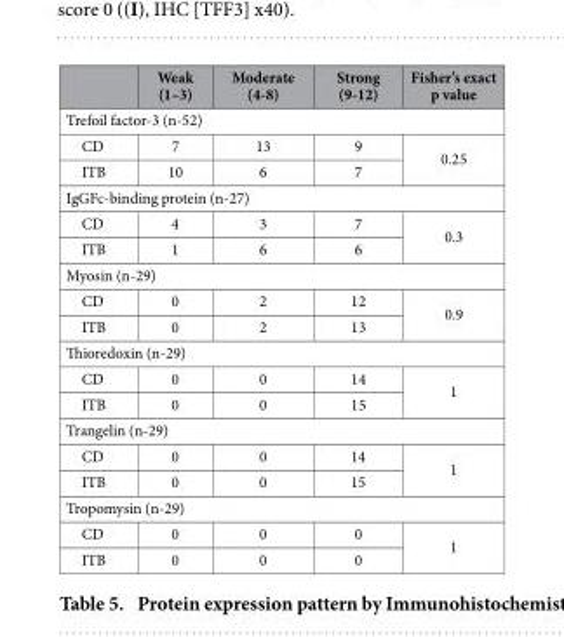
<table><thead><tr><td></td><td>Weak (1–3)</td><td>Moderate (4-8)</td><td>Strong (9-12)</td><td>Fisher’s exact p value</td></tr></thead><tbody><tr><td colspan="5">Trefoil factor-3 (n-52)</td></tr><tr><td>CD</td><td>7</td><td>13</td><td>9</td><td rowspan="2">0.25</td></tr><tr><td>ITB</td><td>10</td><td>6</td><td>7</td></tr><tr><td colspan="5">IgGFc-binding protein (n-27)</td></tr><tr><td>CD</td><td>4</td><td>3</td><td>7</td><td rowspan="2">0.3</td></tr><tr><td>ITB</td><td>1</td><td>6</td><td>6</td></tr><tr><td colspan="5">Myosin (n-29)</td></tr><tr><td>CD</td><td>0</td><td>2</td><td>12</td><td rowspan="2">0.9</td></tr><tr><td>ITB</td><td>0</td><td>2</td><td>13</td></tr><tr><td colspan="5">Thioredoxin (n-29)</td></tr><tr><td>CD</td><td>0</td><td>0</td><td>14</td><td rowspan="2">1</td></tr><tr><td>ITB</td><td>0</td><td>0</td><td>15</td></tr><tr><td colspan="5">Trangelin (n-29)</td></tr><tr><td>CD</td><td>0</td><td>0</td><td>14</td><td rowspan="2">1</td></tr><tr><td>ITB</td><td>0</td><td>0</td><td>15</td></tr><tr><td colspan="5">Tropomysin (n-29)</td></tr><tr><td>CD</td><td>0</td><td>0</td><td>0</td><td rowspan="2">1</td></tr><tr><td>ITB</td><td>0</td><td>0</td><td>0</td></tr></tbody></table>